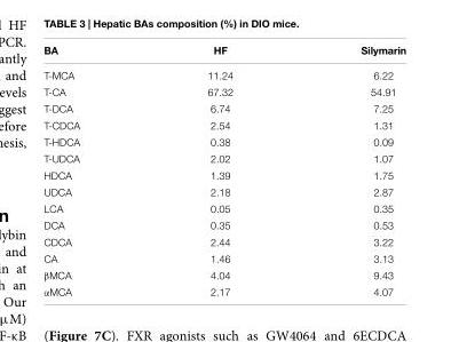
<table><thead><tr><td>BA</td><td>HF</td><td>Silymarin</td></tr></thead><tbody><tr><td>T-MCA</td><td>11.24</td><td>6.22</td></tr><tr><td>T-CA</td><td>67.32</td><td>54.91</td></tr><tr><td>T-DCA</td><td>6.74</td><td>7.25</td></tr><tr><td>T-CDCA</td><td>2.54</td><td>1.31</td></tr><tr><td>T-HDCA</td><td>0.38</td><td>0.09</td></tr><tr><td>T-UDCA</td><td>2.02</td><td>1.07</td></tr><tr><td>HDCA</td><td>1.39</td><td>1.75</td></tr><tr><td>UDCA</td><td>2.18</td><td>2.87</td></tr><tr><td>LCA</td><td>0.05</td><td>0.35</td></tr><tr><td>DCA</td><td>0.35</td><td>0.53</td></tr><tr><td>CDCA</td><td>2.44</td><td>3.22</td></tr><tr><td>CA</td><td>1.46</td><td>3.13</td></tr><tr><td>βMCA</td><td>4.04</td><td>9.43</td></tr><tr><td>αMCA</td><td>2.17</td><td>4.07</td></tr></tbody></table>